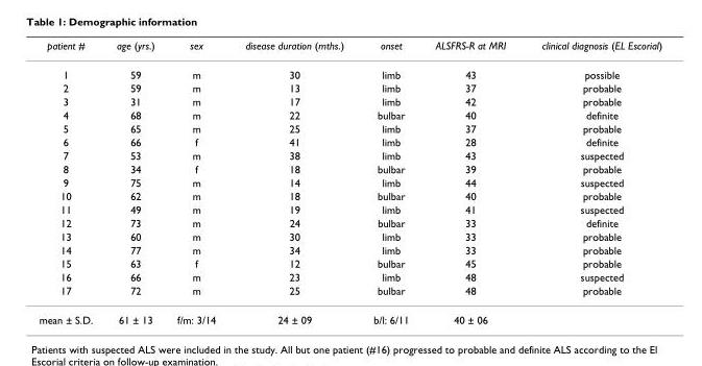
<table><thead><tr><td>patient #</td><td>age (yrs.)</td><td>sex</td><td>disease duration (mths.)</td><td>onset</td><td>ALSFRS-R at MRI</td><td>clinical diagnosis (EL Escorial)</td></tr></thead><tbody><tr><td>1</td><td>59</td><td>m</td><td>30</td><td>limb</td><td>43</td><td>possible</td></tr><tr><td>2</td><td>59</td><td>m</td><td>13</td><td>limb</td><td>37</td><td>probable</td></tr><tr><td>3</td><td>31</td><td>m</td><td>17</td><td>limb</td><td>42</td><td>probable</td></tr><tr><td>4</td><td>68</td><td>m</td><td>22</td><td>bulbar</td><td>40</td><td>definite</td></tr><tr><td>5</td><td>65</td><td>m</td><td>25</td><td>limb</td><td>37</td><td>probable</td></tr><tr><td>6</td><td>66</td><td>f</td><td>41</td><td>limb</td><td>28</td><td>definite</td></tr><tr><td>7</td><td>53</td><td>m</td><td>38</td><td>limb</td><td>43</td><td>suspected</td></tr><tr><td>8</td><td>34</td><td>f</td><td>18</td><td>bulbar</td><td>39</td><td>probable</td></tr><tr><td>9</td><td>75</td><td>m</td><td>14</td><td>limb</td><td>44</td><td>suspected</td></tr><tr><td>10</td><td>62</td><td>m</td><td>18</td><td>bulbar</td><td>40</td><td>probable</td></tr><tr><td>11</td><td>49</td><td>m</td><td>19</td><td>limb</td><td>41</td><td>suspected</td></tr><tr><td>12</td><td>73</td><td>m</td><td>24</td><td>bulbar</td><td>33</td><td>definite</td></tr><tr><td>13</td><td>60</td><td>m</td><td>30</td><td>limb</td><td>33</td><td>probable</td></tr><tr><td>14</td><td>77</td><td>m</td><td>34</td><td>limb</td><td>33</td><td>probable</td></tr><tr><td>15</td><td>63</td><td>f</td><td>12</td><td>bulbar</td><td>45</td><td>probable</td></tr><tr><td>16</td><td>66</td><td>m</td><td>23</td><td>limb</td><td>48</td><td>suspected</td></tr><tr><td>17</td><td>72</td><td>m</td><td>25</td><td>bulbar</td><td>48</td><td>probable</td></tr><tr><td>mean ± S.D.</td><td>61 ± 13</td><td>f/m: 3/14</td><td>24 ± 09</td><td>b/l: 6/11</td><td>40 ± 06</td><td></td></tr></tbody></table>